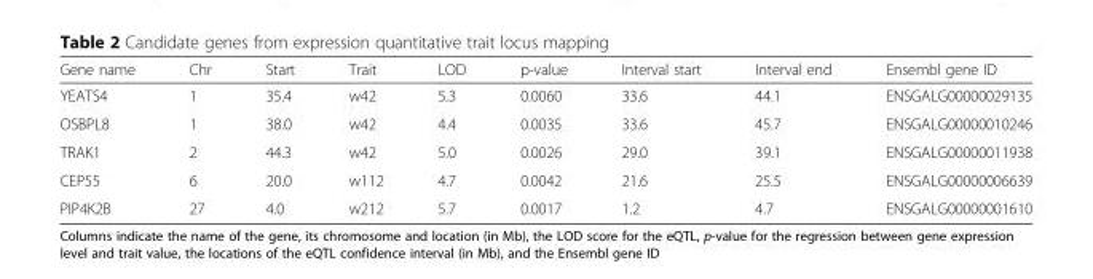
<table><thead><tr><td>Gene name</td><td>Chr</td><td>Start</td><td>Trait</td><td>LOD</td><td>p-value</td><td>Interval start</td><td>Interval end</td><td>Ensembl gene ID</td></tr></thead><tbody><tr><td>YEATS4</td><td>1</td><td>35.4</td><td>w42</td><td>5.3</td><td>0.0060</td><td>33.6</td><td>44.1</td><td>ENSGALG00000029135</td></tr><tr><td>OSBPL8</td><td>1</td><td>38.0</td><td>w42</td><td>4.4</td><td>0.0035</td><td>33.6</td><td>45.7</td><td>ENSGALG00000010246</td></tr><tr><td>TRAK1</td><td>2</td><td>44.3</td><td>w42</td><td>5.0</td><td>0.0026</td><td>29.0</td><td>39.1</td><td>ENSGALG00000011938</td></tr><tr><td>CEP55</td><td>6</td><td>20.0</td><td>w112</td><td>4.7</td><td>0.0042</td><td>21.6</td><td>25.5</td><td>ENSGALG00000006639</td></tr><tr><td>PIP4K2B</td><td>27</td><td>4.0</td><td>w212</td><td>5.7</td><td>0.0017</td><td>1.2</td><td>4.7</td><td>ENSGALG00000001610</td></tr></tbody></table>